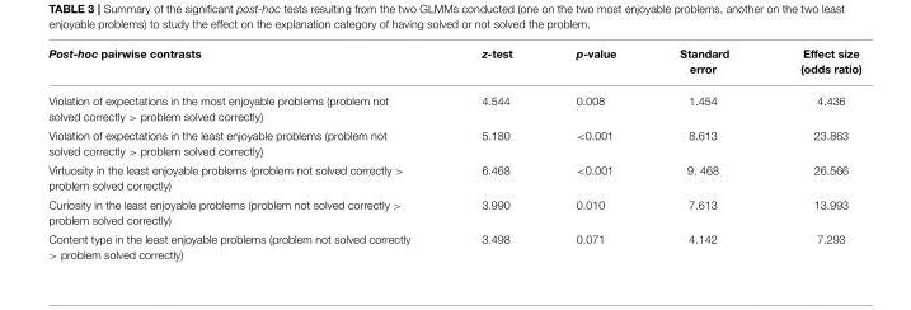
<table><thead><tr><td>Post-hoc pairwise contrasts</td><td>z-test</td><td>p-value</td><td>Standard error</td><td>Effect size (odds ratio)</td></tr></thead><tbody><tr><td>Violation of expectations in the most enjoyable problems (problem not solved correctly &gt; problem solved correctly)</td><td>4.544</td><td>0.008</td><td>1.454</td><td>4.436</td></tr><tr><td>Violation of expectations in the least enjoyable problems (problem not solved correctly &gt; problem solved correctly)</td><td>5.180</td><td>&lt;0.001</td><td>8.613</td><td>23.863</td></tr><tr><td>Virtuosity in the least enjoyable problems (problem not solved correctly &gt; problem solved correctly)</td><td>6.468</td><td>&lt;0.001</td><td>9. 468</td><td>26.566</td></tr><tr><td>Curiosity in the least enjoyable problems (problem not solved correctly &gt; problem solved correctly)</td><td>3.990</td><td>0.010</td><td>7.613</td><td>13.993</td></tr><tr><td>Content type in the least enjoyable problems (problem not solved correctly &gt; problem solved correctly)</td><td>3.498</td><td>0.071</td><td>4.142</td><td>7.293</td></tr></tbody></table>